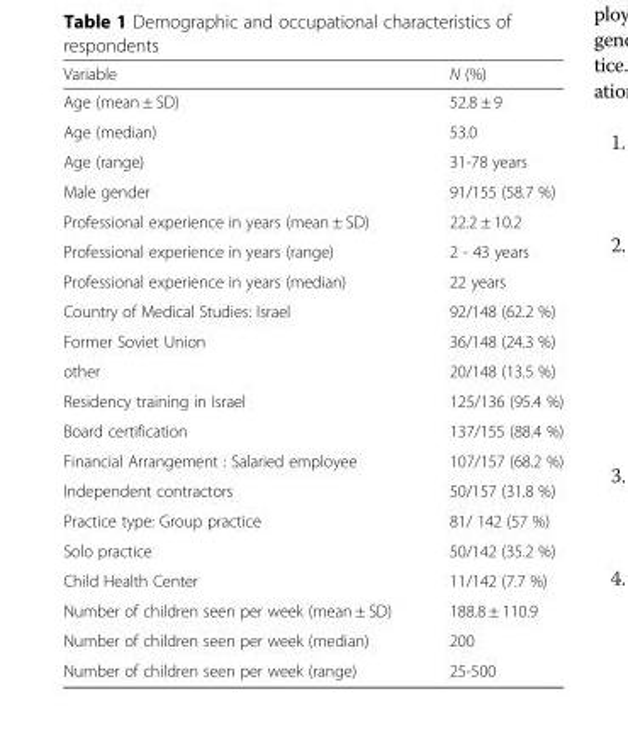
<table><thead><tr><td>Variable</td><td>N (%)</td></tr></thead><tbody><tr><td>Age (mean ± SD)</td><td>52.8 ± 9</td></tr><tr><td>Age (median)</td><td>53.0</td></tr><tr><td>Age (range)</td><td>31-78 years</td></tr><tr><td>Male gender</td><td>91/155 (58.7 %)</td></tr><tr><td>Professional experience in years (mean ± SD)</td><td>22.2 ± 10.2</td></tr><tr><td>Professional experience in years (range)</td><td>2 - 43 years</td></tr><tr><td>Professional experience in years (median)</td><td>22 years</td></tr><tr><td>Country of Medical Studies: Israel</td><td>92/148 (62.2 %)</td></tr><tr><td>Former Soviet Union</td><td>36/148 (24.3 %)</td></tr><tr><td>other</td><td>20/148 (13.5 %)</td></tr><tr><td>Residency training in Israel</td><td>125/136 (95.4 %)</td></tr><tr><td>Board certification</td><td>137/155 (88.4 %)</td></tr><tr><td>Financial Arrangement : Salaried employee</td><td>107/157 (68.2 %)</td></tr><tr><td>Independent contractors</td><td>50/157 (31.8 %)</td></tr><tr><td>Practice type: Group practice</td><td>81/ 142 (57 %)</td></tr><tr><td>Solo practice</td><td>50/142 (35.2 %)</td></tr><tr><td>Child Health Center</td><td>11/142 (7.7 %)</td></tr><tr><td>Number of children seen per week (mean ± SD)</td><td>188.8 ± 110.9</td></tr><tr><td>Number of children seen per week (median)</td><td>200</td></tr><tr><td>Number of children seen per week (range)</td><td>25-500</td></tr></tbody></table>